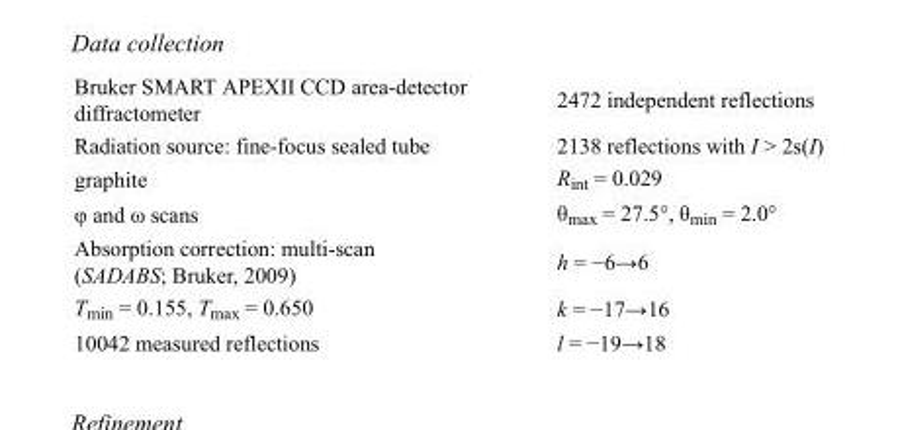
<table><tbody><tr><td>Bruker SMART APEXII CCD area-detector diffractometer</td><td>2472 independent reflections</td></tr><tr><td>Radiation source: fine-focus sealed tube</td><td>2138 reflections with I &gt; 2s(I)</td></tr><tr><td>graphite</td><td>R<sub>int</sub> = 0.029</td></tr><tr><td>φ and ω scans</td><td>θ<sub>max</sub> = 27.5°, θ<sub>min</sub> = 2.0°</td></tr><tr><td>Absorption correction: multi-scan (SADABS; Bruker, 2009)</td><td>h = −6→6</td></tr><tr><td>T<sub>min</sub> = 0.155, T<sub>max</sub> = 0.650</td><td>k = −17→16</td></tr><tr><td>10042 measured reflections</td><td>l = −19→18</td></tr></tbody></table>